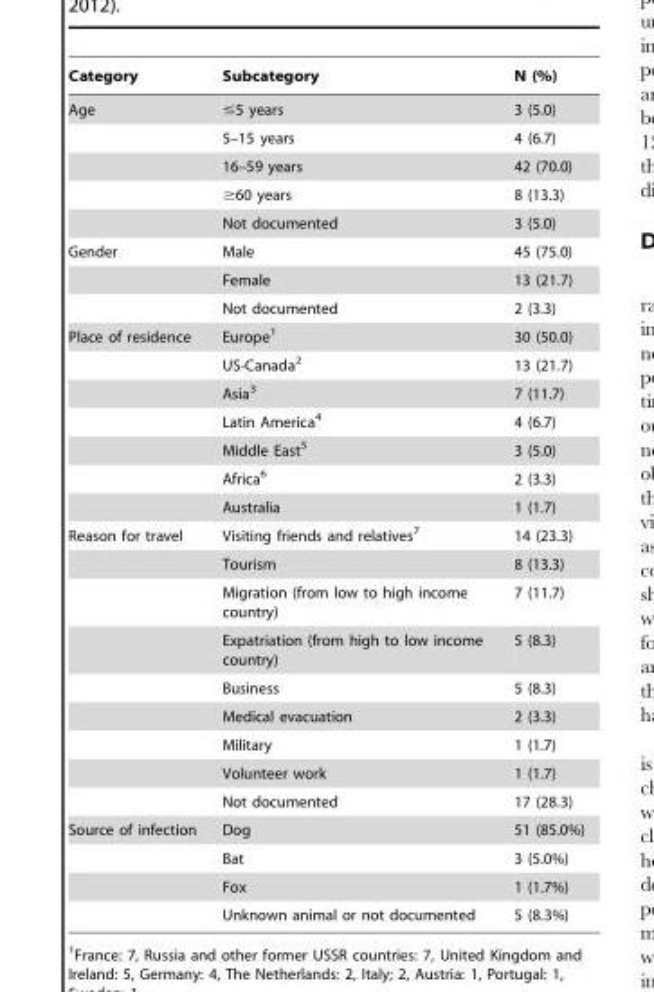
<table><thead><tr><td>Category</td><td>Subcategory</td><td>N (%)</td></tr></thead><tbody><tr><td rowspan="5">Age</td><td>≤5 years</td><td>3 (5.0)</td></tr><tr><td>5–15 years</td><td>4 (6.7)</td></tr><tr><td>16–59 years</td><td>42 (70.0)</td></tr><tr><td>≥60 years</td><td>8 (13.3)</td></tr><tr><td>Not documented</td><td>3 (5.0)</td></tr><tr><td rowspan="3">Gender</td><td>Male</td><td>45 (75.0)</td></tr><tr><td>Female</td><td>13 (21.7)</td></tr><tr><td>Not documented</td><td>2 (3.3)</td></tr><tr><td rowspan="7">Place of residence</td><td>Europe<sup>1</sup></td><td>30 (50.0)</td></tr><tr><td>US-Canada<sup>2</sup></td><td>13 (21.7)</td></tr><tr><td>Asia<sup>3</sup></td><td>7 (11.7)</td></tr><tr><td>Latin America<sup>4</sup></td><td>4 (6.7)</td></tr><tr><td>Middle East<sup>5</sup></td><td>3 (5.0)</td></tr><tr><td>Africa<sup>6</sup></td><td>2 (3.3)</td></tr><tr><td>Australia</td><td>1 (1.7)</td></tr><tr><td rowspan="9">Reason for travel</td><td>Visiting friends and relatives<sup>7</sup></td><td>14 (23.3)</td></tr><tr><td>Tourism</td><td>8 (13.3)</td></tr><tr><td>Migration (from low to high income country)</td><td>7 (11.7)</td></tr><tr><td>Expatriation (from high to low income country)</td><td>5 (8.3)</td></tr><tr><td>Business</td><td>5 (8.3)</td></tr><tr><td>Medical evacuation</td><td>2 (3.3)</td></tr><tr><td>Military</td><td>1 (1.7)</td></tr><tr><td>Volunteer work</td><td>1 (1.7)</td></tr><tr><td>Not documented</td><td>17 (28.3)</td></tr><tr><td rowspan="4">Source of infection</td><td>Dog</td><td>51 (85.0%)</td></tr><tr><td>Bat</td><td>3 (5.0%)</td></tr><tr><td>Fox</td><td>1 (1.7%)</td></tr><tr><td>Unknown animal or not documented</td><td>5 (8.3%)</td></tr></tbody></table>